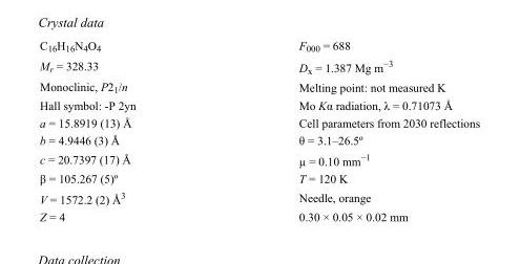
<table><tbody><tr><td>C<sub>16</sub>H<sub>16</sub>N<sub>4</sub>O<sub>4</sub></td><td>F000 = 688</td></tr><tr><td>M<sub>r</sub> = 328.33</td><td>D<sub>x</sub> = 1.387 Mg m<sup>−3</sup></td></tr><tr><td>Monoclinic, P2<sub>1</sub>/n</td><td>Melting point: not measured K</td></tr><tr><td>Hall symbol: -P 2yn</td><td>Mo Kα radiation, λ = 0.71073 Å</td></tr><tr><td>a = 15.8919 (13) Å</td><td>Cell parameters from 2030 reflections</td></tr><tr><td>b = 4.9446 (3) Å</td><td>θ = 3.1–26.5º</td></tr><tr><td>c = 20.7397 (17) Å</td><td>µ = 0.10 mm<sup>−1</sup></td></tr><tr><td>β = 105.267 (5)º</td><td>T = 120 K</td></tr><tr><td>V = 1572.2 (2) Å<sup>3</sup></td><td>Needle, orange</td></tr><tr><td>Z = 4</td><td>0.30 × 0.05 × 0.02 mm</td></tr></tbody></table>